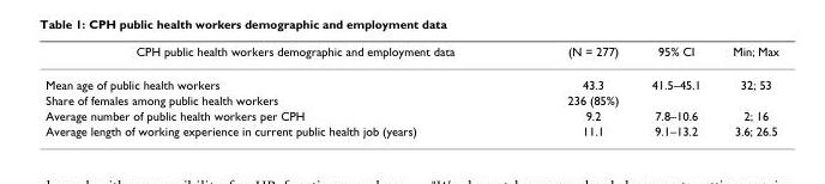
<table><thead><tr><td>CPH public health workers demographic and employment data</td><td>(N = 277)</td><td>95% CI</td><td>Min; Max</td></tr></thead><tbody><tr><td>Mean age of public health workers</td><td>43.3</td><td>41.5–45.1</td><td>32; 53</td></tr><tr><td>Share of females among public health workers</td><td>236 (85%)</td><td></td><td></td></tr><tr><td>Average number of public health workers per CPH</td><td>9.2</td><td>7.8–10.6</td><td>2; 16</td></tr><tr><td>Average length of working experience in current public health job (years)</td><td>11.1</td><td>9.1–13.2</td><td>3.6; 26.5</td></tr></tbody></table>